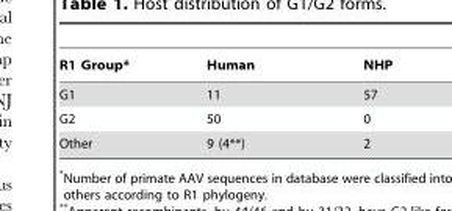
<table><thead><tr><td>R1 Group*</td><td>Human</td><td>NHP</td></tr></thead><tbody><tr><td>G1</td><td>11</td><td>57</td></tr><tr><td>G2</td><td>50</td><td>0</td></tr><tr><td>Other</td><td>9 (4**)</td><td>2</td></tr></tbody></table>